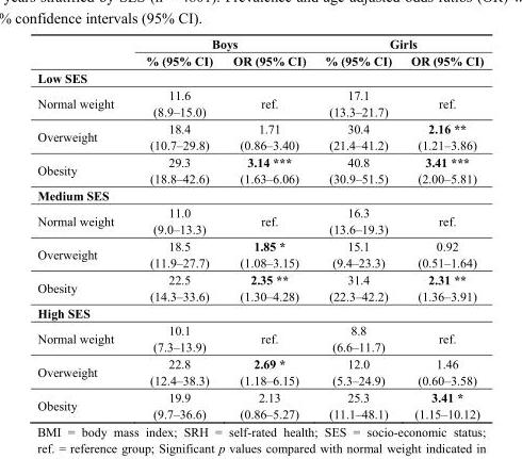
<table><thead><tr><td rowspan="2"></td><td colspan="2">Boys</td><td colspan="2">Girls</td></tr><tr><td>% (95% CI)</td><td>OR (95% CI)</td><td>% (95% CI)</td><td>OR (95% CI)</td></tr></thead><tbody><tr><td colspan="5">Low SES</td></tr><tr><td>Normal weight</td><td>11.6 (8.9‒15.0)</td><td>ref.</td><td>17.1 (13.3‒21.7)</td><td>ref.</td></tr><tr><td>Overweight</td><td>18.4 (10.7‒29.8)</td><td>1.71 (0.86‒3.40)</td><td>30.4 (21.4‒41.2)</td><td>2.16 ** (1.21‒3.86)</td></tr><tr><td>Obesity</td><td>29.3 (18.8‒42.6)</td><td>3.14 *** (1.63‒6.06)</td><td>40.8 (30.9‒51.5)</td><td>3.41 *** (2.00‒5.81)</td></tr><tr><td colspan="5">Medium SES</td></tr><tr><td>Normal weight</td><td>11.0 (9.0‒13.3)</td><td>ref.</td><td>16.3 (13.6‒19.3)</td><td>ref.</td></tr><tr><td>Overweight</td><td>18.5 (11.9‒27.7)</td><td>1.85 * (1.08‒3.15)</td><td>15.1 (9.4‒23.3)</td><td>0.92 (0.51‒1.64)</td></tr><tr><td>Obesity</td><td>22.5 (14.3‒33.6)</td><td>2.35 ** (1.30‒4.28)</td><td>31.4 (22.3‒42.2)</td><td>2.31 ** (1.36‒3.91)</td></tr><tr><td colspan="5">High SES</td></tr><tr><td>Normal weight</td><td>10.1 (7.3‒13.9)</td><td>ref.</td><td>8.8 (6.6‒11.7)</td><td>ref.</td></tr><tr><td>Overweight</td><td>22.8 (12.4‒38.3)</td><td>2.69 * (1.18‒6.15)</td><td>12.0 (5.3‒24.9)</td><td>1.46 (0.60‒3.58)</td></tr><tr><td>Obesity</td><td>19.9 (9.7‒36.6)</td><td>2.13 (0.86‒5.27)</td><td>25.3 (11.1‒48.1)</td><td>3.41 * (1.15‒10.12)</td></tr></tbody></table>